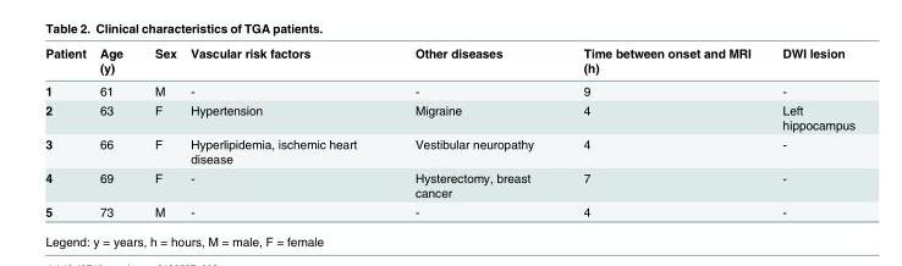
<table><thead><tr><td>Patient</td><td>Age (y)</td><td>Sex</td><td>Vascular risk factors</td><td>Other diseases</td><td>Time between onset and MRI (h)</td><td>DWI lesion</td></tr></thead><tbody><tr><td>1</td><td>61</td><td>M</td><td>-</td><td>-</td><td>9</td><td>-</td></tr><tr><td>2</td><td>63</td><td>F</td><td>Hypertension</td><td>Migraine</td><td>4</td><td>Left hippocampus</td></tr><tr><td>3</td><td>66</td><td>F</td><td>Hyperlipidemia, ischemic heart disease</td><td>Vestibular neuropathy</td><td>4</td><td>-</td></tr><tr><td>4</td><td>69</td><td>F</td><td>-</td><td>Hysterectomy, breast cancer</td><td>7</td><td>-</td></tr><tr><td>5</td><td>73</td><td>M</td><td>-</td><td>-</td><td>4</td><td>-</td></tr></tbody></table>